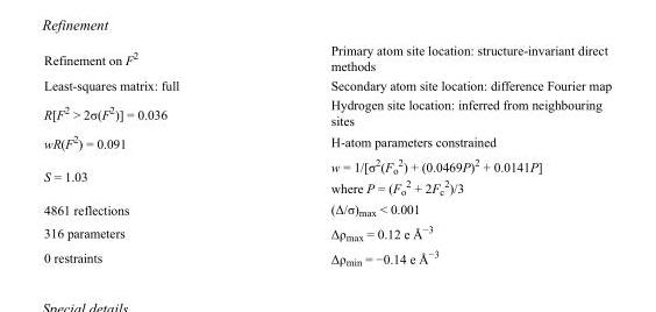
<table><tbody><tr><td>Refinement on F<sup>2</sup></td><td>Primary atom site location: structure-invariant direct methods</td></tr><tr><td>Least-squares matrix: full</td><td>Secondary atom site location: difference Fourier map</td></tr><tr><td>R[F<sup>2</sup> &gt; 2σ(F<sup>2</sup>)] = 0.036</td><td>Hydrogen site location: inferred from neighbouring sites</td></tr><tr><td>wR(F<sup>2</sup>) = 0.091</td><td>H-atom parameters constrained</td></tr><tr><td>S = 1.03</td><td>w = 1/[σ<sup>2</sup>(F<sub>o</sub> <sup>2</sup>) + (0.0469P)<sup>2</sup> + 0.0141P] where P = (F<sub>o</sub> <sup>2</sup> + 2F<sub>c</sub> <sup>2</sup>)/3</td></tr><tr><td>4861 reflections</td><td>(Δ/σ)<sub>max</sub> &lt; 0.001</td></tr><tr><td>316 parameters</td><td>Δρ<sub>max</sub> = 0.12 e Å<sup>−3</sup></td></tr><tr><td>0 restraints</td><td>Δρ<sub>min</sub> = −0.14 e Å<sup>−3</sup></td></tr></tbody></table>